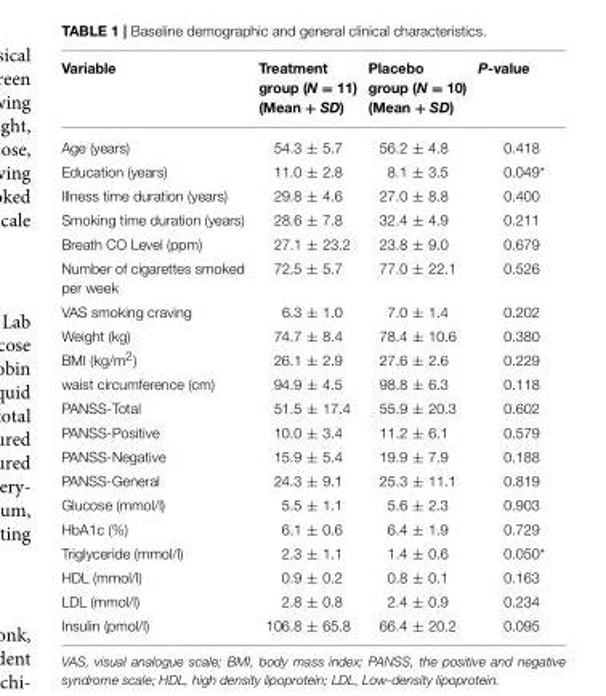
<table><thead><tr><td>Variable</td><td>Treatment group (N = 11) (Mean + SD)</td><td>Placebo group (N = 10) (Mean + SD)</td><td>P-value</td></tr></thead><tbody><tr><td>Age (years)</td><td>54.3 ± 5.7</td><td>56.2 ± 4.8</td><td>0.418</td></tr><tr><td>Education (years)</td><td>11.0 ± 2.8</td><td>8.1 ± 3.5</td><td>0.049*</td></tr><tr><td>Illness time duration (years)</td><td>29.8 ± 4.6</td><td>27.0 ± 8.8</td><td>0.400</td></tr><tr><td>Smoking time duration (years)</td><td>28.6 ± 7.8</td><td>32.4 ± 4.9</td><td>0.211</td></tr><tr><td>Breath CO Level (ppm)</td><td>27.1 ± 23.2</td><td>23.8 ± 9.0</td><td>0.679</td></tr><tr><td>Number of cigarettes smoked per week</td><td>72.5 ± 5.7</td><td>77.0 ± 22.1</td><td>0.526</td></tr><tr><td>VAS smoking craving</td><td>6.3 ± 1.0</td><td>7.0 ± 1.4</td><td>0.202</td></tr><tr><td>Weight (kg)</td><td>74.7 ± 8.4</td><td>78.4 ± 10.6</td><td>0.380</td></tr><tr><td>BMI (kg/m<sup>2</sup>)</td><td>26.1 ± 2.9</td><td>27.6 ± 2.6</td><td>0.229</td></tr><tr><td>waist circumference (cm)</td><td>94.9 ± 4.5</td><td>98.8 ± 6.3</td><td>0.118</td></tr><tr><td>PANSS-Total</td><td>51.5 ± 17.4</td><td>55.9 ± 20.3</td><td>0.602</td></tr><tr><td>PANSS-Positive</td><td>10.0 ± 3.4</td><td>11.2 ± 6.1</td><td>0.579</td></tr><tr><td>PANSS-Negative</td><td>15.9 ± 5.4</td><td>19.9 ± 7.9</td><td>0.188</td></tr><tr><td>PANSS-General</td><td>24.3 ± 9.1</td><td>25.3 ± 11.1</td><td>0.819</td></tr><tr><td>Glucose (mmol/l)</td><td>5.5 ± 1.1</td><td>5.6 ± 2.3</td><td>0.903</td></tr><tr><td>HbA1c (%)</td><td>6.1 ± 0.6</td><td>6.4 ± 1.9</td><td>0.729</td></tr><tr><td>Triglyceride (mmol/l)</td><td>2.3 ± 1.1</td><td>1.4 ± 0.6</td><td>0.050*</td></tr><tr><td>HDL (mmol/l)</td><td>0.9 ± 0.2</td><td>0.8 ± 0.1</td><td>0.163</td></tr><tr><td>LDL (mmol/l)</td><td>2.8 ± 0.8</td><td>2.4 ± 0.9</td><td>0.234</td></tr><tr><td>Insulin (pmol/l)</td><td>106.8 ± 65.8</td><td>66.4 ± 20.2</td><td>0.095</td></tr></tbody></table>